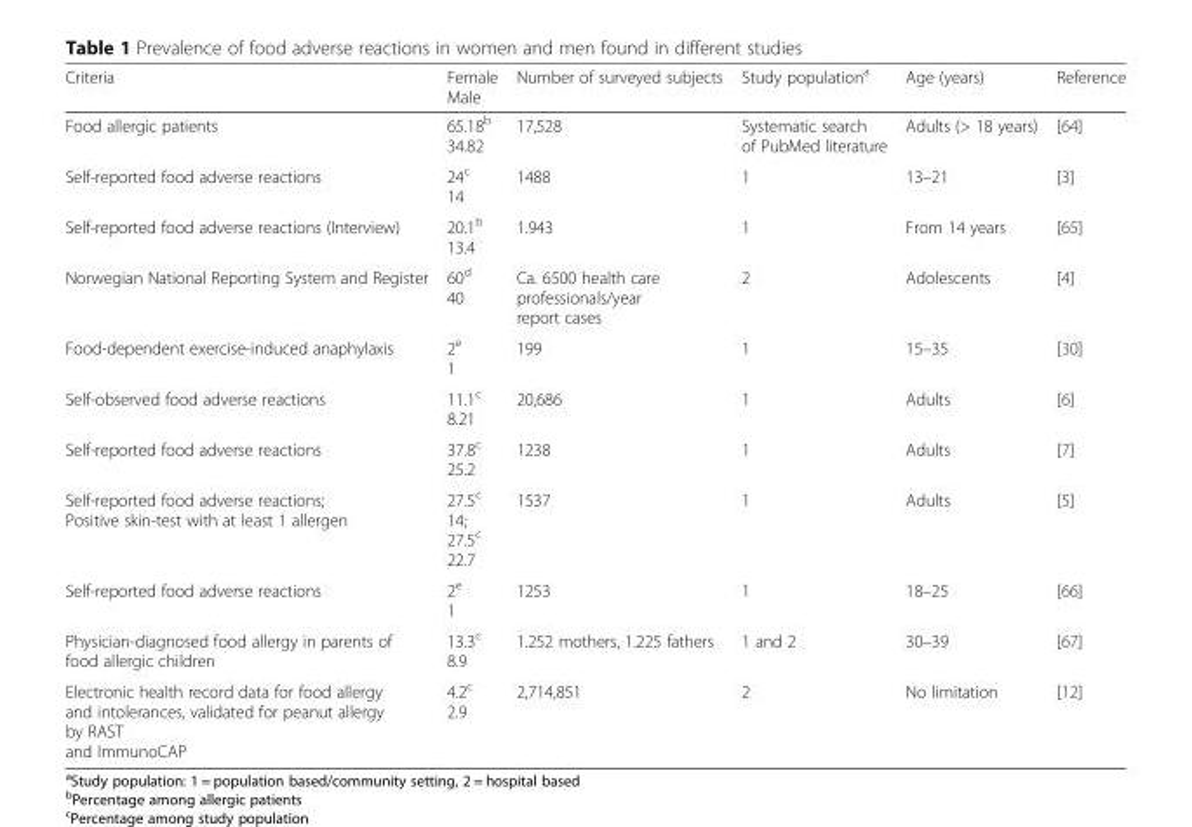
<table><thead><tr><td>Criteria</td><td>Female Male</td><td>Number of surveyed subjects</td><td>Study population<sup>a</sup></td><td>Age (years)</td><td>Reference</td></tr></thead><tbody><tr><td>Food allergic patients</td><td>65.18<sup>b</sup> 34.82</td><td>17,528</td><td>Systematic search of PubMed literature</td><td>Adults (&gt; 18 years)</td><td>[64]</td></tr><tr><td>Self-reported food adverse reactions</td><td>24<sup>c</sup> 14</td><td>1488</td><td>1</td><td>13–21</td><td>[3]</td></tr><tr><td>Self-reported food adverse reactions (Interview)</td><td>20.1<sup>b</sup> 13.4</td><td>1.943</td><td>1</td><td>From 14 years</td><td>[65]</td></tr><tr><td>Norwegian National Reporting System and Register</td><td>60<sup>d</sup> 40</td><td>Ca. 6500 health care professionals/year report cases</td><td>2</td><td>Adolescents</td><td>[4]</td></tr><tr><td>Food-dependent exercise-induced anaphylaxis</td><td>2<sup>e</sup> 1</td><td>199</td><td>1</td><td>15–35</td><td>[30]</td></tr><tr><td>Self-observed food adverse reactions</td><td>11.1<sup>c</sup> 8.21</td><td>20,686</td><td>1</td><td>Adults</td><td>[6]</td></tr><tr><td>Self-reported food adverse reactions</td><td>37.8<sup>c</sup> 25.2</td><td>1238</td><td>1</td><td>Adults</td><td>[7]</td></tr><tr><td>Self-reported food adverse reactions; Positive skin-test with at least 1 allergen</td><td>27.5<sup>c</sup> 14; 27.5<sup>c</sup> 22.7</td><td>1537</td><td>1</td><td>Adults</td><td>[5]</td></tr><tr><td>Self-reported food adverse reactions</td><td>2<sup>e</sup> 1</td><td>1253</td><td>1</td><td>18–25</td><td>[66]</td></tr><tr><td>Physician-diagnosed food allergy in parents of food allergic children</td><td>13.3<sup>c</sup> 8.9</td><td>1.252 mothers, 1.225 fathers</td><td>1 and 2</td><td>30–39</td><td>[67]</td></tr><tr><td>Electronic health record data for food allergy and intolerances, validated for peanut allergy by RAST and ImmunoCAP</td><td>4.2<sup>c</sup> 2.9</td><td>2,714,851</td><td>2</td><td>No limitation</td><td>[12]</td></tr></tbody></table>